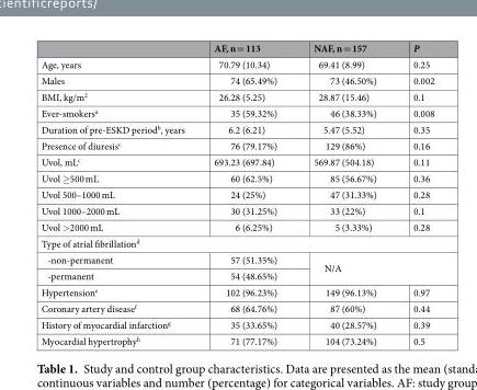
<table><thead><tr><td></td><td>AF, n = 113</td><td>NAF, n = 157</td><td>P</td></tr></thead><tbody><tr><td>Age, years</td><td>70.79 (10.34)</td><td>69.41 (8.99)</td><td>0.25</td></tr><tr><td>Males</td><td>74 (65.49%)</td><td>73 (46.50%)</td><td>0.002</td></tr><tr><td>BMI, kg/m<sup>2</sup></td><td>26.28 (5.25)</td><td>28.87 (15.46)</td><td>0.1</td></tr><tr><td>Ever-smokers<sup>a</sup></td><td>35 (59.32%)</td><td>46 (38.33%)</td><td>0.008</td></tr><tr><td>Duration of pre-ESKD period<sup>b</sup>, years</td><td>6.2 (6.21)</td><td>5.47 (5.52)</td><td>0.35</td></tr><tr><td>Presence of diuresis<sup>c</sup></td><td>76 (79.17%)</td><td>129 (86%)</td><td>0.16</td></tr><tr><td>Uvol, mL<sup>c</sup></td><td>693.23 (697.84)</td><td>569.87 (504.18)</td><td>0.11</td></tr><tr><td>Uvol ≥500 mL</td><td>60 (62.5%)</td><td>85 (56.67%)</td><td>0.36</td></tr><tr><td>Uvol 500–1000 mL</td><td>24 (25%)</td><td>47 (31.33%)</td><td>0.28</td></tr><tr><td>Uvol 1000–2000 mL</td><td>30 (31.25%)</td><td>33 (22%)</td><td>0.1</td></tr><tr><td>Uvol &gt;2000 mL</td><td>6 (6.25%)</td><td>5 (3.33%)</td><td>0.28</td></tr><tr><td colspan="4">Type of atrial fibrillation<sup>d</sup></td></tr><tr><td>-non-permanent</td><td>57 (51.35%)</td><td rowspan="2" colspan="2">N/A</td></tr><tr><td>-permanent</td><td>54 (48.65%)</td></tr><tr><td>Hypertension<sup>e</sup></td><td>102 (96.23%)</td><td>149 (96.13%)</td><td>0.97</td></tr><tr><td>Coronary artery disease<sup>f</sup></td><td>68 (64.76%)</td><td>87 (60%)</td><td>0.44</td></tr><tr><td>History of myocardial infarction<sup>g</sup></td><td>35 (33.65%)</td><td>40 (28.57%)</td><td>0.39</td></tr><tr><td>Myocardial hypertrophy<sup>h</sup></td><td>71 (77.17%)</td><td>104 (73.24%)</td><td>0.5</td></tr></tbody></table>